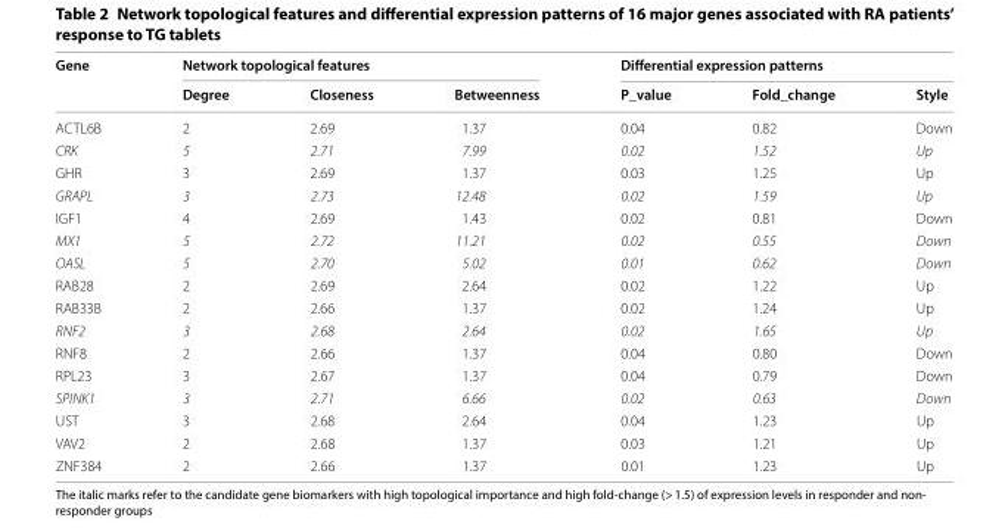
<table><thead><tr><td rowspan="2">Gene</td><td colspan="3">Network topological features</td><td colspan="3">Differential expression patterns</td></tr><tr><td>Degree</td><td>Closeness</td><td>Betweenness</td><td>P_value</td><td>Fold_change</td><td>Style</td></tr></thead><tbody><tr><td>ACTL6B</td><td>2</td><td>2.69</td><td>1.37</td><td>0.04</td><td>0.82</td><td>Down</td></tr><tr><td>CRK</td><td>5</td><td>2.71</td><td>7.99</td><td>0.02</td><td>1.52</td><td>Up</td></tr><tr><td>GHR</td><td>3</td><td>2.69</td><td>1.37</td><td>0.03</td><td>1.25</td><td>Up</td></tr><tr><td>GRAPL</td><td>3</td><td>2.73</td><td>12.48</td><td>0.02</td><td>1.59</td><td>Up</td></tr><tr><td>IGF1</td><td>4</td><td>2.69</td><td>1.43</td><td>0.02</td><td>0.81</td><td>Down</td></tr><tr><td>MX1</td><td>5</td><td>2.72</td><td>11.21</td><td>0.02</td><td>0.55</td><td>Down</td></tr><tr><td>OASL</td><td>5</td><td>2.70</td><td>5.02</td><td>0.01</td><td>0.62</td><td>Down</td></tr><tr><td>RAB28</td><td>2</td><td>2.69</td><td>2.64</td><td>0.02</td><td>1.22</td><td>Up</td></tr><tr><td>RAB33B</td><td>2</td><td>2.66</td><td>1.37</td><td>0.02</td><td>1.24</td><td>Up</td></tr><tr><td>RNF2</td><td>3</td><td>2.68</td><td>2.64</td><td>0.02</td><td>1.65</td><td>Up</td></tr><tr><td>RNF8</td><td>2</td><td>2.66</td><td>1.37</td><td>0.04</td><td>0.80</td><td>Down</td></tr><tr><td>RPL23</td><td>3</td><td>2.67</td><td>1.37</td><td>0.04</td><td>0.79</td><td>Down</td></tr><tr><td>SPINK1</td><td>3</td><td>2.71</td><td>6.66</td><td>0.02</td><td>0.63</td><td>Down</td></tr><tr><td>UST</td><td>3</td><td>2.68</td><td>2.64</td><td>0.04</td><td>1.23</td><td>Up</td></tr><tr><td>VAV2</td><td>2</td><td>2.68</td><td>1.37</td><td>0.03</td><td>1.21</td><td>Up</td></tr><tr><td>ZNF384</td><td>2</td><td>2.66</td><td>1.37</td><td>0.01</td><td>1.23</td><td>Up</td></tr></tbody></table>